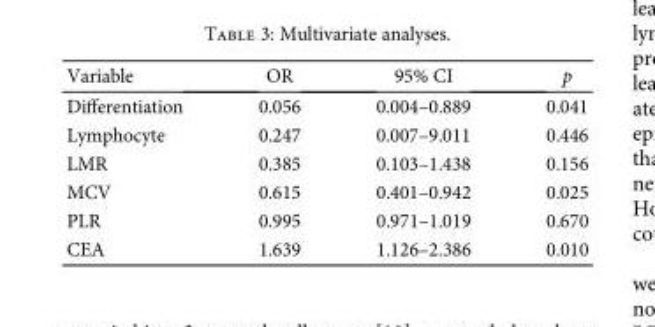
<table><thead><tr><td>Variable</td><td>OR</td><td>95% CI</td><td>p</td></tr></thead><tbody><tr><td>Differentiation</td><td>0.056</td><td>0.004–0.889</td><td>0.041</td></tr><tr><td>Lymphocyte</td><td>0.247</td><td>0.007–9.011</td><td>0.446</td></tr><tr><td>LMR</td><td>0.385</td><td>0.103–1.438</td><td>0.156</td></tr><tr><td>MCV</td><td>0.615</td><td>0.401–0.942</td><td>0.025</td></tr><tr><td>PLR</td><td>0.995</td><td>0.971–1.019</td><td>0.670</td></tr><tr><td>CEA</td><td>1.639</td><td>1.126–2.386</td><td>0.010</td></tr></tbody></table>